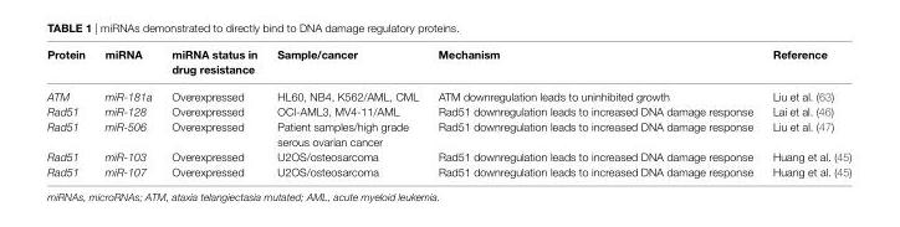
<table><thead><tr><td>Protein</td><td>miRNA</td><td>miRNA status in drug resistance</td><td>Sample/cancer</td><td>Mechanism</td><td>Reference</td></tr></thead><tbody><tr><td>ATM</td><td>miR-181a</td><td>Overexpressed</td><td>HL60, NB4, K562/AML, CML</td><td>ATM downregulation leads to uninhibited growth</td><td>Liu et al. (63)</td></tr><tr><td>Rad51</td><td>miR-128</td><td>Overexpressed</td><td>OCI-AML3, MV4-11/AML</td><td>Rad51 downregulation leads to increased DNA damage response</td><td>Lai et al. (46)</td></tr><tr><td>Rad51</td><td>miR-506</td><td>Overexpressed</td><td>Patient samples/high grade serous ovarian cancer</td><td>Rad51 downregulation leads to increased DNA damage response</td><td>Liu et al. (47)</td></tr><tr><td>Rad51</td><td>miR-103</td><td>Overexpressed</td><td>U2OS/osteosarcoma</td><td>Rad51 downregulation leads to increased DNA damage response</td><td>Huang et al. (45)</td></tr><tr><td>Rad51</td><td>miR-107</td><td>Overexpressed</td><td>U2OS/osteosarcoma</td><td>Rad51 downregulation leads to increased DNA damage response</td><td>Huang et al. (45)</td></tr></tbody></table>